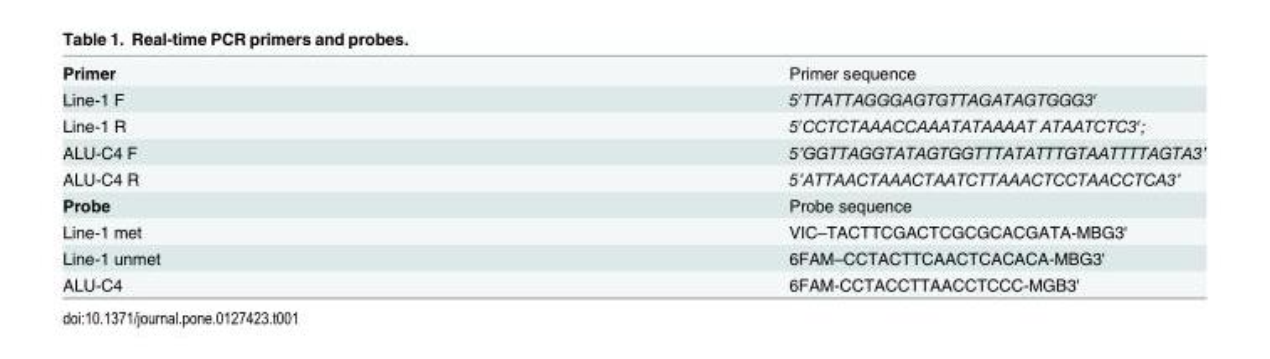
<table><tbody><tr><td>Primer</td><td>Primer sequence</td></tr><tr><td>Line-1 F</td><td>5′TTATTAGGGAGTGTTAGATAGTGGG3′</td></tr><tr><td>Line-1 R</td><td>5′CCTCTAAACCAAATATAAAAT ATAATCTC3′;</td></tr><tr><td>ALU-C4 F</td><td>5’GGTTAGGTATAGTGGTTTATATTTGTAATTTTAGTA3’</td></tr><tr><td>ALU-C4 R</td><td>5’ATTAACTAAACTAATCTTAAACTCCTAACCTCA3’</td></tr><tr><td>Probe</td><td>Probe sequence</td></tr><tr><td>Line-1 met</td><td>VIC–TACTTCGACTCGCGCACGATA-MBG3&#x27;</td></tr><tr><td>Line-1 unmet</td><td>6FAM–CCTACTTCAACTCACACA-MBG3&#x27;</td></tr><tr><td>ALU-C4</td><td>6FAM-CCTACCTTAACCTCCC-MGB3&#x27;</td></tr></tbody></table>